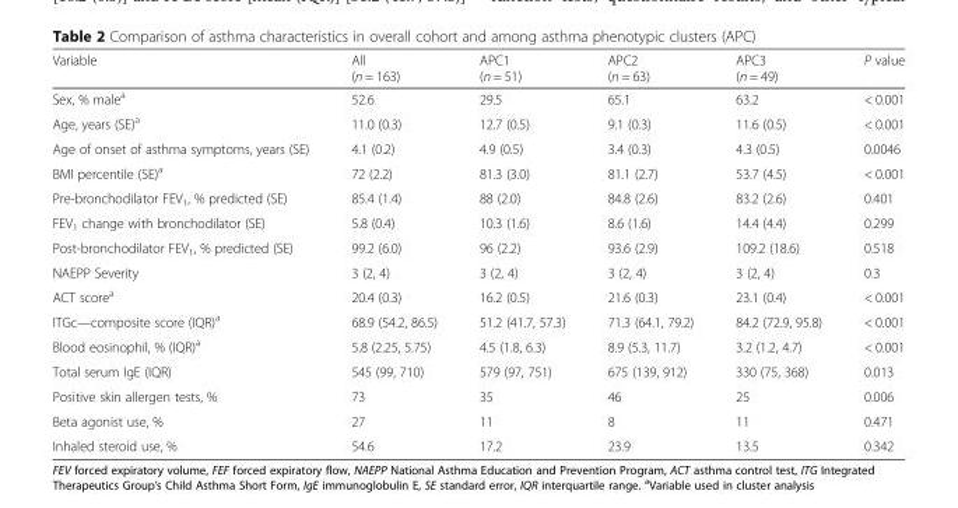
<table><thead><tr><td>Variable</td><td>All (n = 163)</td><td>APC1 (n = 51)</td><td>APC2 (n = 63)</td><td>APC3 (n = 49)</td><td>P value</td></tr></thead><tbody><tr><td>Sex, % male<sup>a</sup></td><td>52.6</td><td>29.5</td><td>65.1</td><td>63.2</td><td>&lt; 0.001</td></tr><tr><td>Age, years (SE)<sup>a</sup></td><td>11.0 (0.3)</td><td>12.7 (0.5)</td><td>9.1 (0.3)</td><td>11.6 (0.5)</td><td>&lt; 0.001</td></tr><tr><td>Age of onset of asthma symptoms, years (SE)</td><td>4.1 (0.2)</td><td>4.9 (0.5)</td><td>3.4 (0.3)</td><td>4.3 (0.5)</td><td>0.0046</td></tr><tr><td>BMI percentile (SE)<sup>a</sup></td><td>72 (2.2)</td><td>81.3 (3.0)</td><td>81.1 (2.7)</td><td>53.7 (4.5)</td><td>&lt; 0.001</td></tr><tr><td>Pre-bronchodilator FEV<sub>1</sub>, % predicted (SE)</td><td>85.4 (1.4)</td><td>88 (2.0)</td><td>84.8 (2.6)</td><td>83.2 (2.6)</td><td>0.401</td></tr><tr><td>FEV<sub>1</sub> change with bronchodilator (SE)</td><td>5.8 (0.4)</td><td>10.3 (1.6)</td><td>8.6 (1.6)</td><td>14.4 (4.4)</td><td>0.299</td></tr><tr><td>Post-bronchodilator FEV<sub>1</sub>, % predicted (SE)</td><td>99.2 (6.0)</td><td>96 (2.2)</td><td>93.6 (2.9)</td><td>109.2 (18.6)</td><td>0.518</td></tr><tr><td>NAEPP Severity</td><td>3 (2, 4)</td><td>3 (2, 4)</td><td>3 (2, 4)</td><td>3 (2, 4)</td><td>0.3</td></tr><tr><td>ACT score<sup>a</sup></td><td>20.4 (0.3)</td><td>16.2 (0.5)</td><td>21.6 (0.3)</td><td>23.1 (0.4)</td><td>&lt; 0.001</td></tr><tr><td>ITGc—composite score (IQR)<sup>a</sup></td><td>68.9 (54.2, 86.5)</td><td>51.2 (41.7, 57.3)</td><td>71.3 (64.1, 79.2)</td><td>84.2 (72.9, 95.8)</td><td>&lt; 0.001</td></tr><tr><td>Blood eosinophil, % (IQR)<sup>a</sup></td><td>5.8 (2.25, 5.75)</td><td>4.5 (1.8, 6.3)</td><td>8.9 (5.3, 11.7)</td><td>3.2 (1.2, 4.7)</td><td>&lt; 0.001</td></tr><tr><td>Total serum IgE (IQR)</td><td>545 (99, 710)</td><td>579 (97, 751)</td><td>675 (139, 912)</td><td>330 (75, 368)</td><td>0.013</td></tr><tr><td>Positive skin allergen tests, %</td><td>73</td><td>35</td><td>46</td><td>25</td><td>0.006</td></tr><tr><td>Beta agonist use, %</td><td>27</td><td>11</td><td>8</td><td>11</td><td>0.471</td></tr><tr><td>Inhaled steroid use, %</td><td>54.6</td><td>17.2</td><td>23.9</td><td>13.5</td><td>0.342</td></tr></tbody></table>